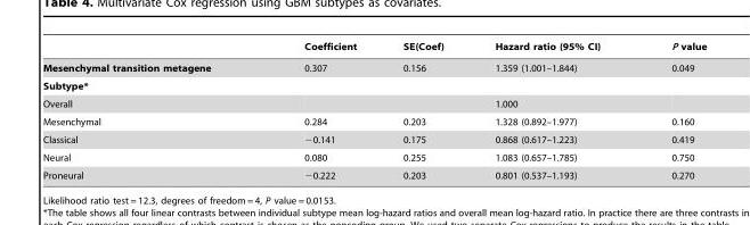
<table><thead><tr><td></td><td>Coefficient</td><td>SE(Coef)</td><td>Hazard ratio (95% CI)</td><td>P value</td></tr></thead><tbody><tr><td>Mesenchymal transition metagene</td><td>0.307</td><td>0.156</td><td>1.359 (1.001–1.844)</td><td>0.049</td></tr><tr><td colspan="5">Subtype*</td></tr><tr><td>Overall</td><td></td><td></td><td>1.000</td><td></td></tr><tr><td>Mesenchymal</td><td>0.284</td><td>0.203</td><td>1.328 (0.892–1.977)</td><td>0.160</td></tr><tr><td>Classical</td><td>−0.141</td><td>0.175</td><td>0.868 (0.617–1.223)</td><td>0.419</td></tr><tr><td>Neural</td><td>0.080</td><td>0.255</td><td>1.083 (0.657–1.785)</td><td>0.750</td></tr><tr><td>Proneural</td><td>−0.222</td><td>0.203</td><td>0.801 (0.537–1.193)</td><td>0.270</td></tr></tbody></table>